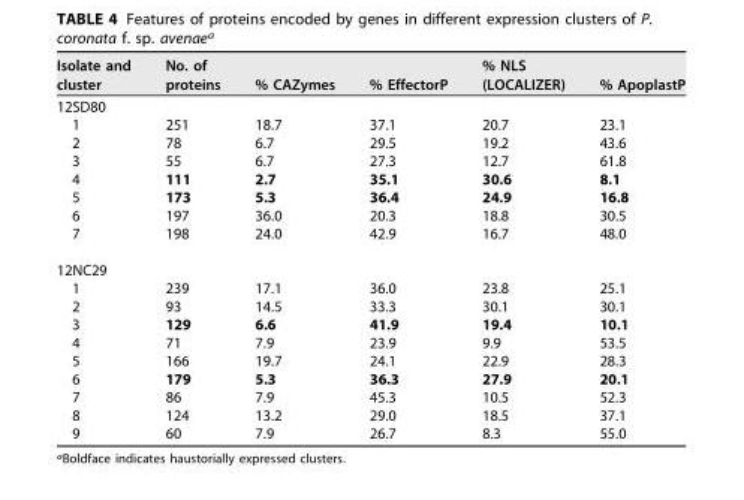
<table><thead><tr><td>Isolate and cluster</td><td>No. of proteins</td><td>% CAZymes</td><td>% EffectorP</td><td>% NLS (LOCALIZER)</td><td>% ApoplastP</td></tr></thead><tbody><tr><td colspan="6">12SD80</td></tr><tr><td>1</td><td>251</td><td>18.7</td><td>37.1</td><td>20.7</td><td>23.1</td></tr><tr><td>2</td><td>78</td><td>6.7</td><td>29.5</td><td>19.2</td><td>43.6</td></tr><tr><td>3</td><td>55</td><td>6.7</td><td>27.3</td><td>12.7</td><td>61.8</td></tr><tr><td>4</td><td>111</td><td>2.7</td><td>35.1</td><td>30.6</td><td>8.1</td></tr><tr><td>5</td><td>173</td><td>5.3</td><td>36.4</td><td>24.9</td><td>16.8</td></tr><tr><td>6</td><td>197</td><td>36.0</td><td>20.3</td><td>18.8</td><td>30.5</td></tr><tr><td>7</td><td>198</td><td>24.0</td><td>42.9</td><td>16.7</td><td>48.0</td></tr><tr><td colspan="6">12NC29</td></tr><tr><td>1</td><td>239</td><td>17.1</td><td>36.0</td><td>23.8</td><td>25.1</td></tr><tr><td>2</td><td>93</td><td>14.5</td><td>33.3</td><td>30.1</td><td>30.1</td></tr><tr><td>3</td><td>129</td><td>6.6</td><td>41.9</td><td>19.4</td><td>10.1</td></tr><tr><td>4</td><td>71</td><td>7.9</td><td>23.9</td><td>9.9</td><td>53.5</td></tr><tr><td>5</td><td>166</td><td>19.7</td><td>24.1</td><td>22.9</td><td>28.3</td></tr><tr><td>6</td><td>179</td><td>5.3</td><td>36.3</td><td>27.9</td><td>20.1</td></tr><tr><td>7</td><td>86</td><td>7.9</td><td>45.3</td><td>10.5</td><td>52.3</td></tr><tr><td>8</td><td>124</td><td>13.2</td><td>29.0</td><td>18.5</td><td>37.1</td></tr><tr><td>9</td><td>60</td><td>7.9</td><td>26.7</td><td>8.3</td><td>55.0</td></tr></tbody></table>